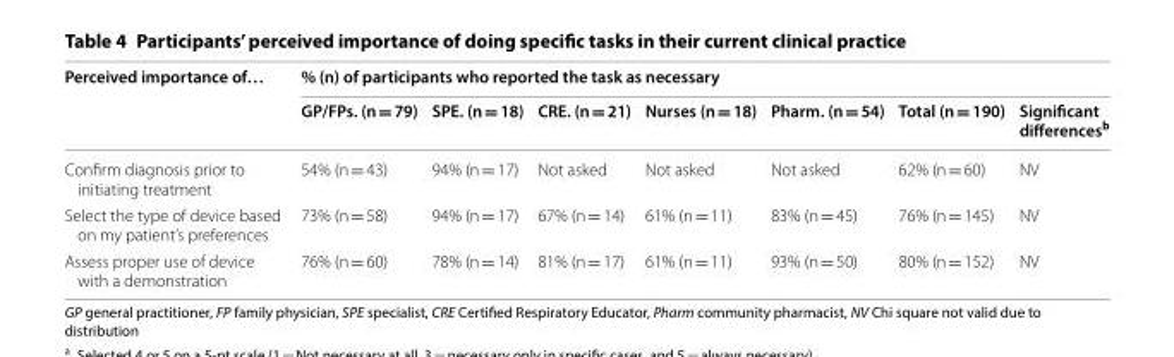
<table><thead><tr><td rowspan="2">Perceived importance of…</td><td colspan="7">% (n) of participants who reported the task as necessary</td></tr><tr><td>GP/FPs. (n = 79)</td><td>SPE. (n = 18)</td><td>CRE. (n = 21)</td><td>Nurses (n = 18)</td><td>Pharm. (n = 54)</td><td>Total (n = 190)</td><td>Significant differences<sup>b</sup></td></tr></thead><tbody><tr><td>Confirm diagnosis prior to initiating treatment</td><td>54% (n = 43)</td><td>94% (n = 17)</td><td>Not asked</td><td>Not asked</td><td>Not asked</td><td>62% (n = 60)</td><td>NV</td></tr><tr><td>Select the type of device based on my patient’s preferences</td><td>73% (n = 58)</td><td>94% (n = 17)</td><td>67% (n = 14)</td><td>61% (n = 11)</td><td>83% (n = 45)</td><td>76% (n = 145)</td><td>NV</td></tr><tr><td>Assess proper use of device with a demonstration</td><td>76% (n = 60)</td><td>78% (n = 14)</td><td>81% (n = 17)</td><td>61% (n = 11)</td><td>93% (n = 50)</td><td>80% (n = 152)</td><td>NV</td></tr></tbody></table>